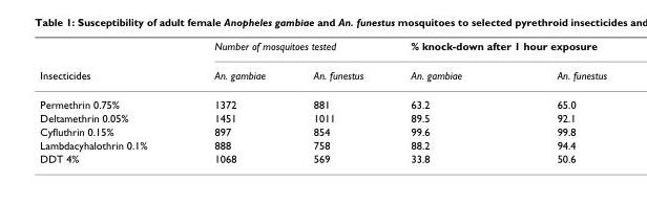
<table><thead><tr><td rowspan="2">Insecticides</td><td colspan="2">Number of mosquitoes tested</td><td colspan="2">% knock-down after 1 hour exposure</td></tr><tr><td>An. gambiae</td><td>An. funestus</td><td>An. gambiae</td><td>An. funestus</td></tr></thead><tbody><tr><td>Permethrin 0.75%</td><td>1372</td><td>881</td><td>63.2</td><td>65.0</td></tr><tr><td>Deltamethrin 0.05%</td><td>1451</td><td>1011</td><td>89.5</td><td>92.1</td></tr><tr><td>Cyfluthrin 0.15%</td><td>897</td><td>854</td><td>99.6</td><td>99.8</td></tr><tr><td>Lambdacyhalothrin 0.1%</td><td>888</td><td>758</td><td>88.2</td><td>94.4</td></tr><tr><td>DDT 4%</td><td>1068</td><td>569</td><td>33.8</td><td>50.6</td></tr></tbody></table>